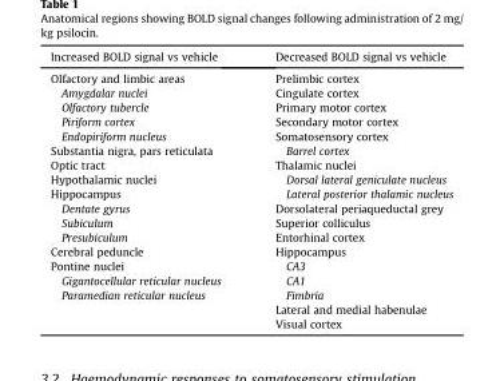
<table><thead><tr><td>Increased BOLD signal vs vehicle</td><td>Decreased BOLD signal vs vehicle</td></tr></thead><tbody><tr><td>Olfactory and limbic areas</td><td>Prelimbic cortex</td></tr><tr><td>Amygdalar nuclei</td><td>Cingulate cortex</td></tr><tr><td>Olfactory tubercle</td><td>Primary motor cortex</td></tr><tr><td>Piriform cortex</td><td>Secondary motor cortex</td></tr><tr><td>Endopiriform nucleus</td><td>Somatosensory cortex</td></tr><tr><td>Substantia nigra, pars reticulata</td><td>Barrel cortex</td></tr><tr><td>Optic tract</td><td>Thalamic nuclei</td></tr><tr><td>Hypothalamic nuclei</td><td>Dorsal lateral geniculate nucleus</td></tr><tr><td>Hippocampus</td><td>Lateral posterior thalamic nucleus</td></tr><tr><td>Dentate gyrus</td><td>Dorsolateral periaqueductal grey</td></tr><tr><td>Subiculum</td><td>Superior colliculus</td></tr><tr><td>Presubiculum</td><td>Entorhinal cortex</td></tr><tr><td>Cerebral peduncle</td><td>Hippocampus</td></tr><tr><td>Pontine nuclei</td><td>CA3</td></tr><tr><td>Gigantocellular reticular nucleus</td><td>CA1</td></tr><tr><td rowspan="3">Paramedian reticular nucleus</td><td>Fimbria</td></tr><tr><td>Lateral and medial habenulae</td></tr><tr><td>Visual cortex</td></tr></tbody></table>